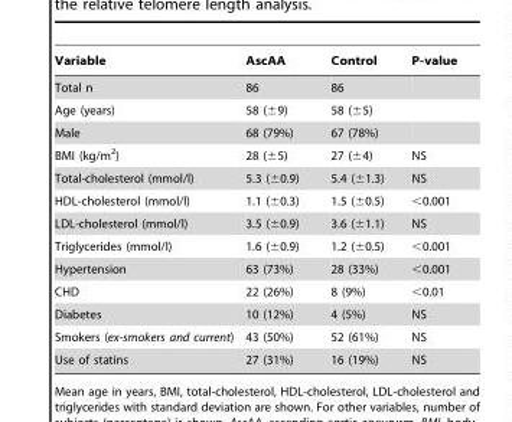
<table><thead><tr><td>Variable</td><td>AscAA</td><td>Control</td><td>P-value</td></tr></thead><tbody><tr><td>Total n</td><td>86</td><td>86</td><td></td></tr><tr><td>Age (years)</td><td>58 (±9)</td><td>58 (±5)</td><td></td></tr><tr><td>Male</td><td>68 (79%)</td><td>67 (78%)</td><td></td></tr><tr><td>BMI (kg/m<sup>2</sup>)</td><td>28 (±5)</td><td>27 (±4)</td><td>NS</td></tr><tr><td>Total-cholesterol (mmol/l)</td><td>5.3 (±0.9)</td><td>5.4 (±1.3)</td><td>NS</td></tr><tr><td>HDL-cholesterol (mmol/l)</td><td>1.1 (±0.3)</td><td>1.5 (±0.5)</td><td>&lt;0.001</td></tr><tr><td>LDL-cholesterol (mmol/l)</td><td>3.5 (±0.9)</td><td>3.6 (±1.1)</td><td>NS</td></tr><tr><td>Triglycerides (mmol/l)</td><td>1.6 (±0.9)</td><td>1.2 (±0.5)</td><td>&lt;0.001</td></tr><tr><td>Hypertension</td><td>63 (73%)</td><td>28 (33%)</td><td>&lt;0.001</td></tr><tr><td>CHD</td><td>22 (26%)</td><td>8 (9%)</td><td>&lt;0.01</td></tr><tr><td>Diabetes</td><td>10 (12%)</td><td>4 (5%)</td><td>NS</td></tr><tr><td>Smokers (ex-smokers and current)</td><td>43 (50%)</td><td>52 (61%)</td><td>NS</td></tr><tr><td>Use of statins</td><td>27 (31%)</td><td>16 (19%)</td><td>NS</td></tr></tbody></table>